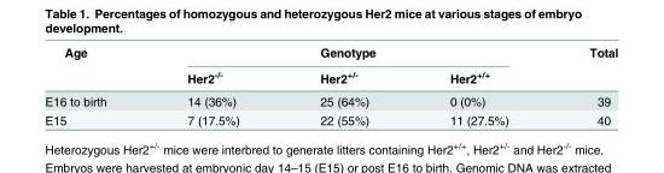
<table><thead><tr><td rowspan="2">Age</td><td colspan="3">Genotype</td><td rowspan="2">Total</td></tr><tr><td>Her2<sup>-/-</sup></td><td>Her2<sup>+/-</sup></td><td>Her2<sup>+/+</sup></td></tr></thead><tbody><tr><td>E16 to birth</td><td>14 (36%)</td><td>25 (64%)</td><td>0 (0%)</td><td>39</td></tr><tr><td>E15</td><td>7 (17.5%)</td><td>22 (55%)</td><td>11 (27.5%)</td><td>40</td></tr></tbody></table>